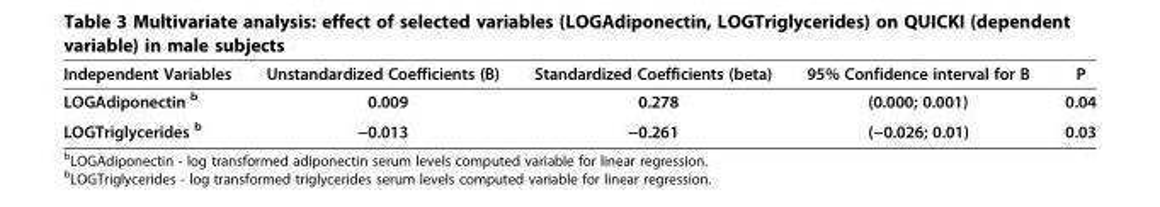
<table><thead><tr><td>Independent Variables</td><td>Unstandardized Coefficients (B)</td><td>Standardized Coefficients (beta)</td><td>95% Confidence interval for B</td><td>P</td></tr></thead><tbody><tr><td>LOGAdiponectin <sup>b</sup></td><td>0.009</td><td>0.278</td><td>(0.000; 0.001)</td><td>0.04</td></tr><tr><td>LOGTriglycerides <sup>b</sup></td><td>−0.013</td><td>−0.261</td><td>(−0.026; 0.01)</td><td>0.03</td></tr></tbody></table>